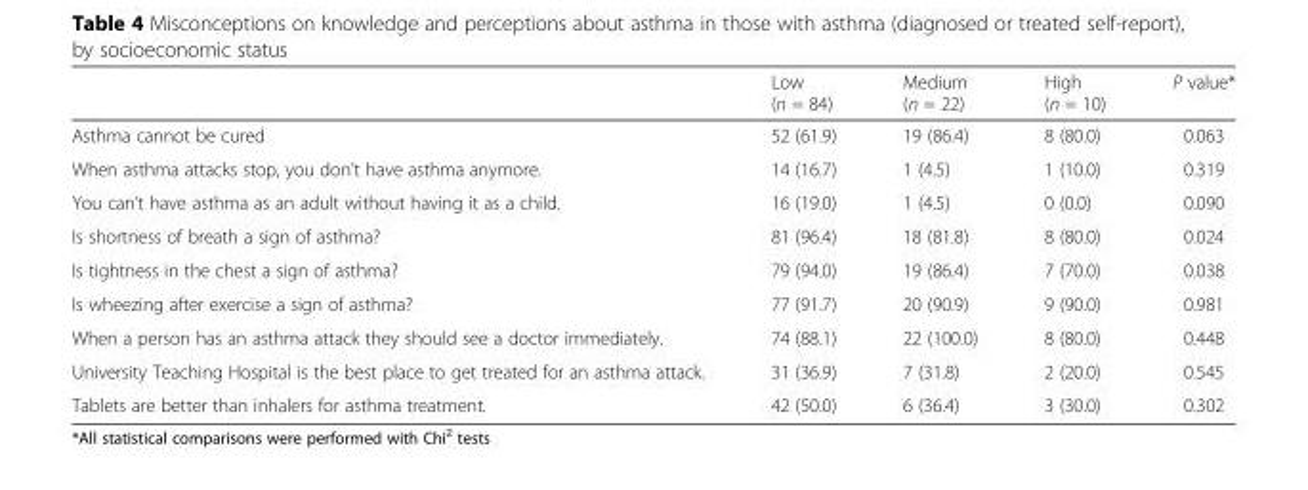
<table><thead><tr><td></td><td>Low (n = 84)</td><td>Medium (n = 22)</td><td>High (n = 10)</td><td>P value*</td></tr></thead><tbody><tr><td>Asthma cannot be cured</td><td>52 (61.9)</td><td>19 (86.4)</td><td>8 (80.0)</td><td>0.063</td></tr><tr><td>When asthma attacks stop, you don’t have asthma anymore.</td><td>14 (16.7)</td><td>1 (4.5)</td><td>1 (10.0)</td><td>0.319</td></tr><tr><td>You can’t have asthma as an adult without having it as a child.</td><td>16 (19.0)</td><td>1 (4.5)</td><td>0 (0.0)</td><td>0.090</td></tr><tr><td>Is shortness of breath a sign of asthma?</td><td>81 (96.4)</td><td>18 (81.8)</td><td>8 (80.0)</td><td>0.024</td></tr><tr><td>Is tightness in the chest a sign of asthma?</td><td>79 (94.0)</td><td>19 (86.4)</td><td>7 (70.0)</td><td>0.038</td></tr><tr><td>Is wheezing after exercise a sign of asthma?</td><td>77 (91.7)</td><td>20 (90.9)</td><td>9 (90.0)</td><td>0.981</td></tr><tr><td>When a person has an asthma attack they should see a doctor immediately.</td><td>74 (88.1)</td><td>22 (100.0)</td><td>8 (80.0)</td><td>0.448</td></tr><tr><td>University Teaching Hospital is the best place to get treated for an asthma attack.</td><td>31 (36.9)</td><td>7 (31.8)</td><td>2 (20.0)</td><td>0.545</td></tr><tr><td>Tablets are better than inhalers for asthma treatment.</td><td>42 (50.0)</td><td>6 (36.4)</td><td>3 (30.0)</td><td>0.302</td></tr></tbody></table>